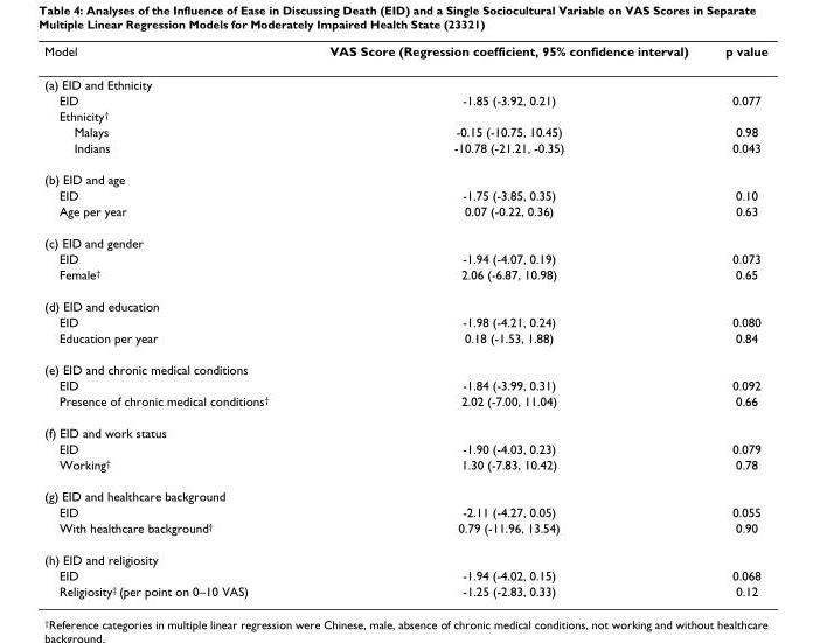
<table><thead><tr><td>Model</td><td>VAS Score (Regression coefficient, 95% confidence interval)</td><td>p value</td></tr></thead><tbody><tr><td colspan="3">(a) EID and Ethnicity</td></tr><tr><td>EID</td><td>-1.85 (-3.92, 0.21)</td><td>0.077</td></tr><tr><td colspan="3">Ethnicity<sup>†</sup></td></tr><tr><td>Malays</td><td>-0.15 (-10.75, 10.45)</td><td>0.98</td></tr><tr><td>Indians</td><td>-10.78 (-21.21, -0.35)</td><td>0.043</td></tr><tr><td colspan="3">(b) EID and age</td></tr><tr><td>EID</td><td>-1.75 (-3.85, 0.35)</td><td>0.10</td></tr><tr><td>Age per year</td><td>0.07 (-0.22, 0.36)</td><td>0.63</td></tr><tr><td colspan="3">(c) EID and gender</td></tr><tr><td>EID</td><td>-1.94 (-4.07, 0.19)</td><td>0.073</td></tr><tr><td>Female<sup>†</sup></td><td>2.06 (-6.87, 10.98)</td><td>0.65</td></tr><tr><td colspan="3">(d) EID and education</td></tr><tr><td>EID</td><td>-1.98 (-4.21, 0.24)</td><td>0.080</td></tr><tr><td>Education per year</td><td>0.18 (-1.53, 1.88)</td><td>0.84</td></tr><tr><td colspan="3">(e) EID and chronic medical conditions</td></tr><tr><td>EID</td><td>-1.84 (-3.99, 0.31)</td><td>0.092</td></tr><tr><td>Presence of chronic medical conditions<sup>†</sup></td><td>2.02 (-7.00, 11.04)</td><td>0.66</td></tr><tr><td colspan="3">(f) EID and work status</td></tr><tr><td>EID</td><td>-1.90 (-4.03, 0.23)</td><td>0.079</td></tr><tr><td>Working<sup>†</sup></td><td>1.30 (-7.83, 10.42)</td><td>0.78</td></tr><tr><td colspan="3">(g) EID and healthcare background</td></tr><tr><td>EID</td><td>-2.11 (-4.27, 0.05)</td><td>0.055</td></tr><tr><td>With healthcare background<sup>†</sup></td><td>0.79 (-11.96, 13.54)</td><td>0.90</td></tr><tr><td colspan="3">(h) EID and religiosity</td></tr><tr><td>EID</td><td>-1.94 (-4.02, 0.15)</td><td>0.068</td></tr><tr><td>Religiosity<sup>‡</sup> (per point on 0–10 VAS)</td><td>-1.25 (-2.83, 0.33)</td><td>0.12</td></tr></tbody></table>